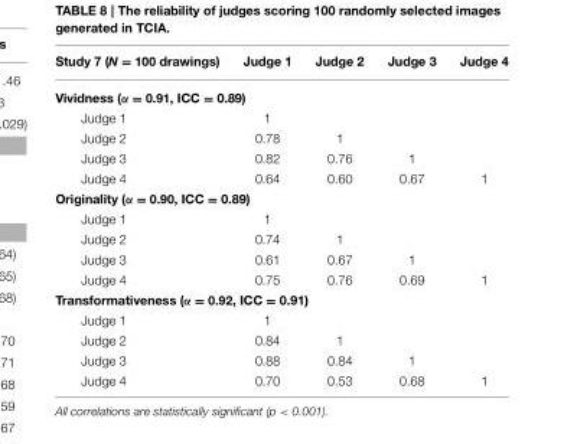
<table><thead><tr><td>Study 7 (N = 100 drawings)</td><td>Judge 1</td><td>Judge 2</td><td>Judge 3</td><td>Judge 4</td></tr></thead><tbody><tr><td colspan="5">Vividness (α = 0.91, ICC = 0.89)</td></tr><tr><td>Judge 1</td><td>1</td><td></td><td></td><td></td></tr><tr><td>Judge 2</td><td>0.78</td><td>1</td><td></td><td></td></tr><tr><td>Judge 3</td><td>0.82</td><td>0.76</td><td>1</td><td></td></tr><tr><td>Judge 4</td><td>0.64</td><td>0.60</td><td>0.67</td><td>1</td></tr><tr><td colspan="5">Originality (α = 0.90, ICC = 0.89)</td></tr><tr><td>Judge 1</td><td>1</td><td></td><td></td><td></td></tr><tr><td>Judge 2</td><td>0.74</td><td>1</td><td></td><td></td></tr><tr><td>Judge 3</td><td>0.61</td><td>0.67</td><td>1</td><td></td></tr><tr><td>Judge 4</td><td>0.75</td><td>0.76</td><td>0.69</td><td>1</td></tr><tr><td colspan="5">Transformativeness (α = 0.92, ICC = 0.91)</td></tr><tr><td>Judge 1</td><td>1</td><td></td><td></td><td></td></tr><tr><td>Judge 2</td><td>0.84</td><td>1</td><td></td><td></td></tr><tr><td>Judge 3</td><td>0.88</td><td>0.84</td><td>1</td><td></td></tr><tr><td>Judge 4</td><td>0.70</td><td>0.53</td><td>0.68</td><td>1</td></tr></tbody></table>